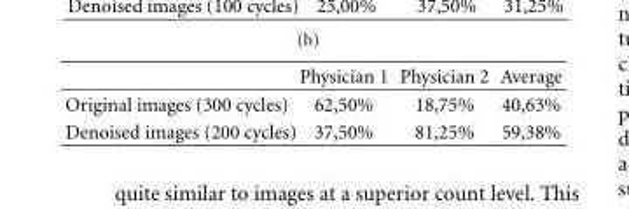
<table><thead><tr><td></td><td>Physician 1</td><td>Physician 2</td><td>Average</td></tr></thead><tbody><tr><td>Original images (300 cycles)</td><td>62,50%</td><td>18,75%</td><td>40,63%</td></tr><tr><td>Denoised images (200 cycles)</td><td>37,50%</td><td>81,25%</td><td>59,38%</td></tr></tbody></table>